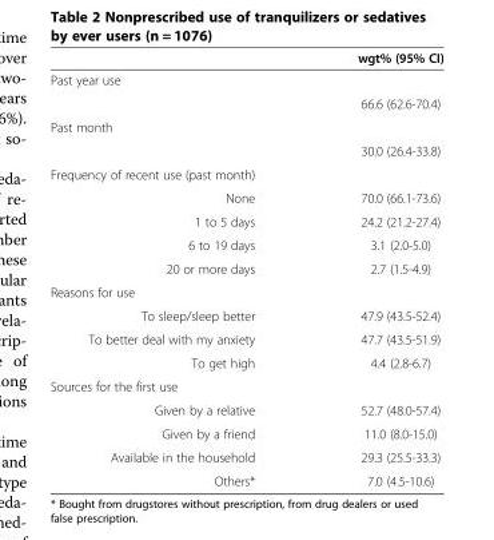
<table><thead><tr><td></td><td>wgt% (95% CI)</td></tr></thead><tbody><tr><td colspan="2">Past year use</td></tr><tr><td></td><td>66.6 (62.6-70.4)</td></tr><tr><td colspan="2">Past month</td></tr><tr><td></td><td>30.0 (26.4-33.8)</td></tr><tr><td colspan="2">Frequency of recent use (past month)</td></tr><tr><td>None</td><td>70.0 (66.1-73.6)</td></tr><tr><td>1 to 5 days</td><td>24.2 (21.2-27.4)</td></tr><tr><td>6 to 19 days</td><td>3.1 (2.0-5.0)</td></tr><tr><td>20 or more days</td><td>2.7 (1.5-4.9)</td></tr><tr><td colspan="2">Reasons for use</td></tr><tr><td>To sleep/sleep better</td><td>47.9 (43.5-52.4)</td></tr><tr><td>To better deal with my anxiety</td><td>47.7 (43.5-51.9)</td></tr><tr><td>To get high</td><td>4.4 (2.8-6.7)</td></tr><tr><td colspan="2">Sources for the first use</td></tr><tr><td>Given by a relative</td><td>52.7 (48.0-57.4)</td></tr><tr><td>Given by a friend</td><td>11.0 (8.0-15.0)</td></tr><tr><td>Available in the household</td><td>29.3 (25.5-33.3)</td></tr><tr><td>Others*</td><td>7.0 (4.5-10.6)</td></tr></tbody></table>